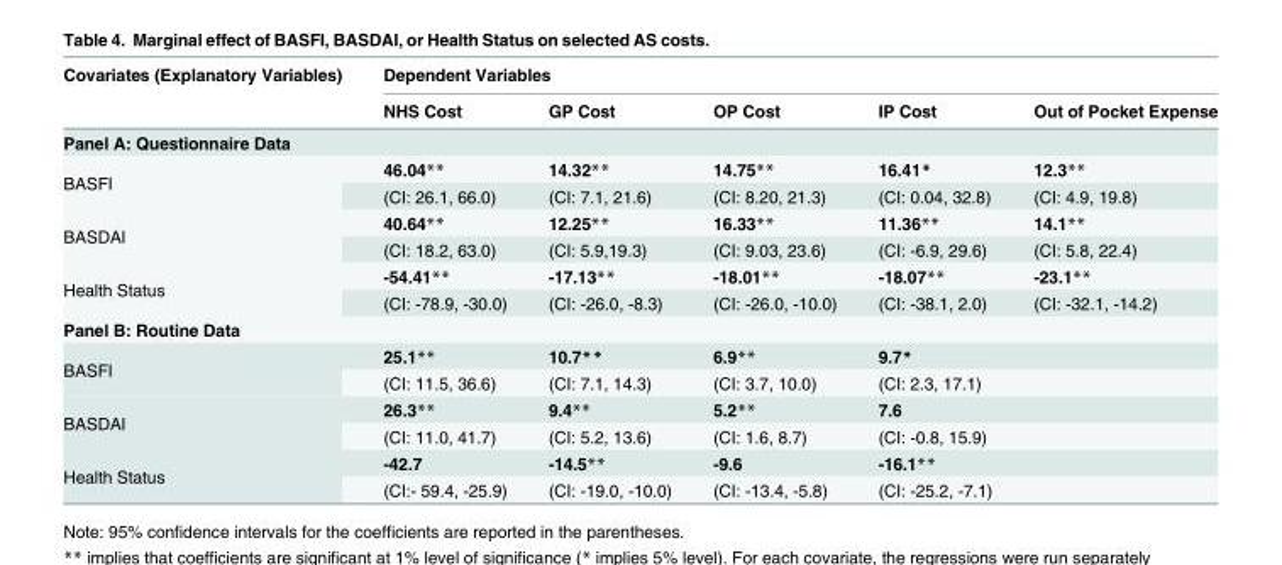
<table><thead><tr><td rowspan="2">Covariates (Explanatory Variables)</td><td colspan="5">Dependent Variables</td></tr><tr><td>NHS Cost</td><td>GP Cost</td><td>OP Cost</td><td>IP Cost</td><td>Out of Pocket Expense</td></tr></thead><tbody><tr><td colspan="6">Panel A: Questionnaire Data</td></tr><tr><td rowspan="2">BASFI</td><td>46.04**</td><td>14.32**</td><td>14.75**</td><td>16.41*</td><td>12.3**</td></tr><tr><td>(CI: 26.1, 66.0)</td><td>(CI: 7.1, 21.6)</td><td>(CI: 8.20, 21.3)</td><td>(CI: 0.04, 32.8)</td><td>(CI: 4.9, 19.8)</td></tr><tr><td rowspan="2">BASDAI</td><td>40.64**</td><td>12.25**</td><td>16.33**</td><td>11.36**</td><td>14.1**</td></tr><tr><td>(CI: 18.2, 63.0)</td><td>(CI: 5.9,19.3)</td><td>(CI: 9.03, 23.6)</td><td>(CI: -6.9, 29.6)</td><td>(CI: 5.8, 22.4)</td></tr><tr><td rowspan="2">Health Status</td><td>-54.41**</td><td>-17.13**</td><td>-18.01**</td><td>-18.07**</td><td>-23.1**</td></tr><tr><td>(CI: -78.9, -30.0)</td><td>(CI: -26.0, -8.3)</td><td>(CI: -26.0, -10.0)</td><td>(CI: -38.1, 2.0)</td><td>(CI: -32.1, -14.2)</td></tr><tr><td colspan="6">Panel B: Routine Data</td></tr><tr><td rowspan="2">BASFI</td><td>25.1**</td><td>10.7**</td><td>6.9**</td><td>9.7*</td><td></td></tr><tr><td>(CI: 11.5, 36.6)</td><td>(CI: 7.1, 14.3)</td><td>(CI: 3.7, 10.0)</td><td>(CI: 2.3, 17.1)</td><td></td></tr><tr><td rowspan="2">BASDAI</td><td>26.3**</td><td>9.4**</td><td>5.2**</td><td>7.6</td><td></td></tr><tr><td>(CI: 11.0, 41.7)</td><td>(CI: 5.2, 13.6)</td><td>(CI: 1.6, 8.7)</td><td>(CI: -0.8, 15.9)</td><td></td></tr><tr><td rowspan="2">Health Status</td><td>-42.7</td><td>-14.5**</td><td>-9.6</td><td>-16.1**</td><td></td></tr><tr><td>(CI:- 59.4, -25.9)</td><td>(CI: -19.0, -10.0)</td><td>(CI: -13.4, -5.8)</td><td>(CI: -25.2, -7.1)</td><td></td></tr></tbody></table>